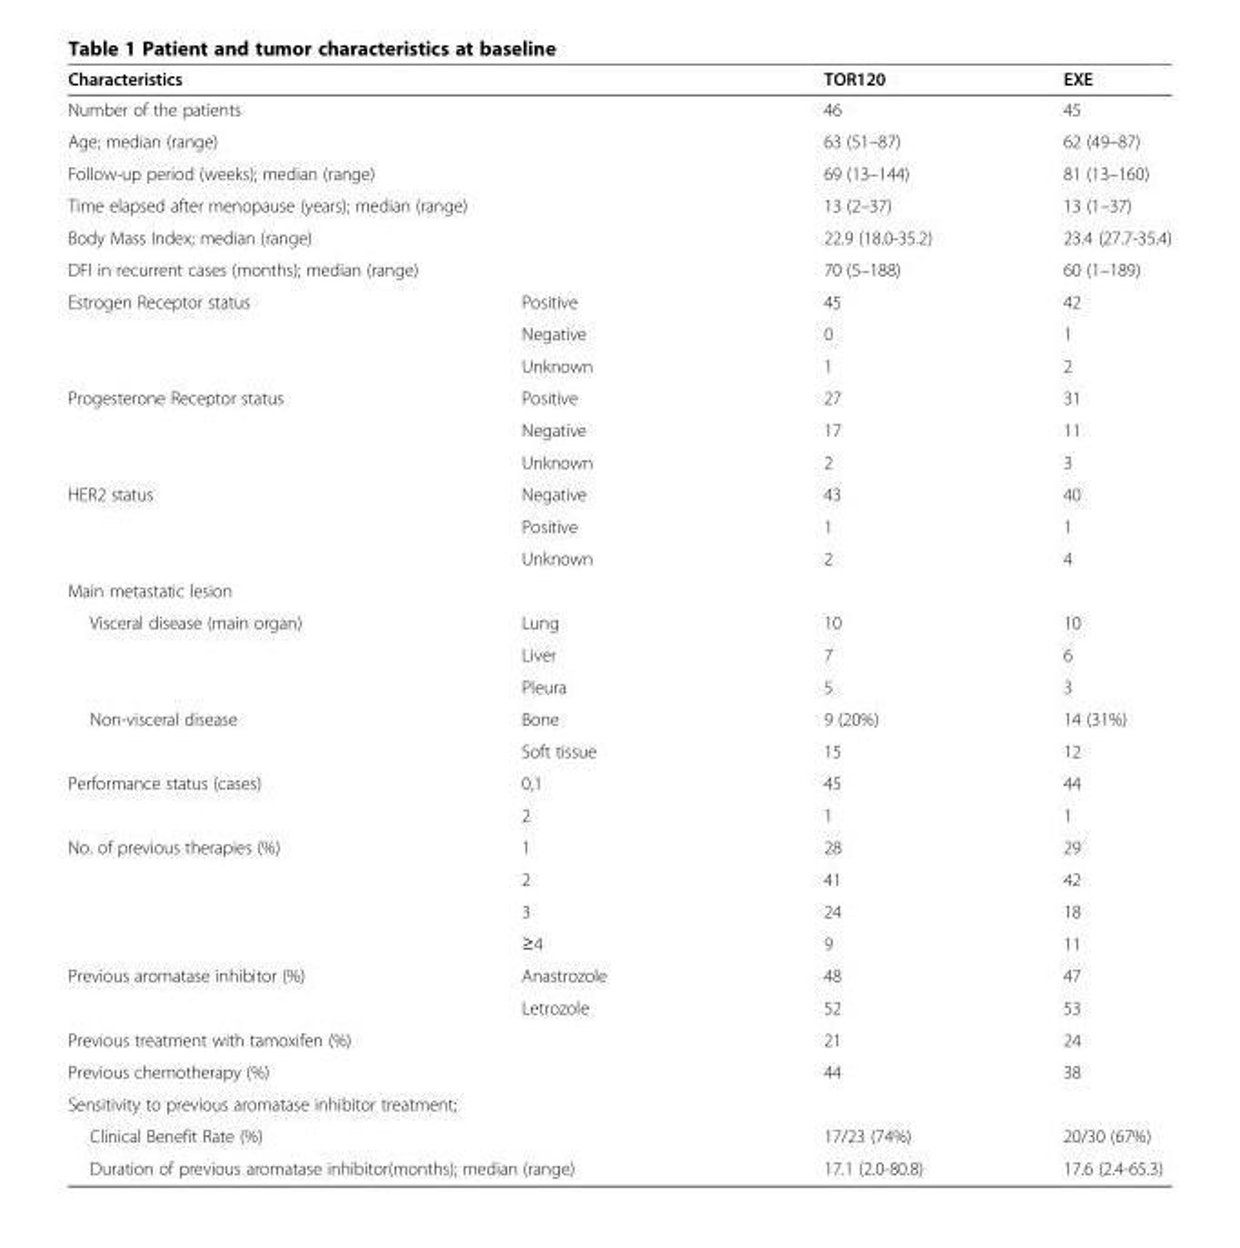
<table><thead><tr><td colspan="2">Characteristics</td><td>TOR120</td><td>EXE</td></tr></thead><tbody><tr><td colspan="2">Number of the patients</td><td>46</td><td>45</td></tr><tr><td colspan="2">Age; median (range)</td><td>63 (51–87)</td><td>62 (49–87)</td></tr><tr><td colspan="2">Follow-up period (weeks); median (range)</td><td>69 (13–144)</td><td>81 (13–160)</td></tr><tr><td colspan="2">Time elapsed after menopause (years); median (range)</td><td>13 (2–37)</td><td>13 (1–37)</td></tr><tr><td colspan="2">Body Mass Index; median (range)</td><td>22.9 (18.0-35.2)</td><td>23.4 (27.7-35.4)</td></tr><tr><td colspan="2">DFI in recurrent cases (months); median (range)</td><td>70 (5–188)</td><td>60 (1–189)</td></tr><tr><td rowspan="3">Estrogen Receptor status</td><td>Positive</td><td>45</td><td>42</td></tr><tr><td>Negative</td><td>0</td><td>1</td></tr><tr><td>Unknown</td><td>1</td><td>2</td></tr><tr><td rowspan="3">Progesterone Receptor status</td><td>Positive</td><td>27</td><td>31</td></tr><tr><td>Negative</td><td>17</td><td>11</td></tr><tr><td>Unknown</td><td>2</td><td>3</td></tr><tr><td rowspan="3">HER2 status</td><td>Negative</td><td>43</td><td>40</td></tr><tr><td>Positive</td><td>1</td><td>1</td></tr><tr><td>Unknown</td><td>2</td><td>4</td></tr><tr><td colspan="4">Main metastatic lesion</td></tr><tr><td rowspan="3">Visceral disease (main organ)</td><td>Lung</td><td>10</td><td>10</td></tr><tr><td>Liver</td><td>7</td><td>6</td></tr><tr><td>Pleura</td><td>5</td><td>3</td></tr><tr><td rowspan="2">Non-visceral disease</td><td>Bone</td><td>9 (20%)</td><td>14 (31%)</td></tr><tr><td>Soft tissue</td><td>15</td><td>12</td></tr><tr><td rowspan="2">Performance status (cases)</td><td>0,1</td><td>45</td><td>44</td></tr><tr><td>2</td><td>1</td><td>1</td></tr><tr><td rowspan="4">No. of previous therapies (%)</td><td>1</td><td>28</td><td>29</td></tr><tr><td>2</td><td>41</td><td>42</td></tr><tr><td>3</td><td>24</td><td>18</td></tr><tr><td>≥4</td><td>9</td><td>11</td></tr><tr><td rowspan="2">Previous aromatase inhibitor (%)</td><td>Anastrozole</td><td>48</td><td>47</td></tr><tr><td>Letrozole</td><td>52</td><td>53</td></tr><tr><td colspan="2">Previous treatment with tamoxifen (%)</td><td>21</td><td>24</td></tr><tr><td colspan="2">Previous chemotherapy (%)</td><td>44</td><td>38</td></tr><tr><td colspan="4">Sensitivity to previous aromatase inhibitor treatment;</td></tr><tr><td colspan="2">Clinical Benefit Rate (%)</td><td>17/23 (74%)</td><td>20/30 (67%)</td></tr><tr><td colspan="2">Duration of previous aromatase inhibitor(months); median (range)</td><td>17.1 (2.0-80.8)</td><td>17.6 (2.4-65.3)</td></tr></tbody></table>